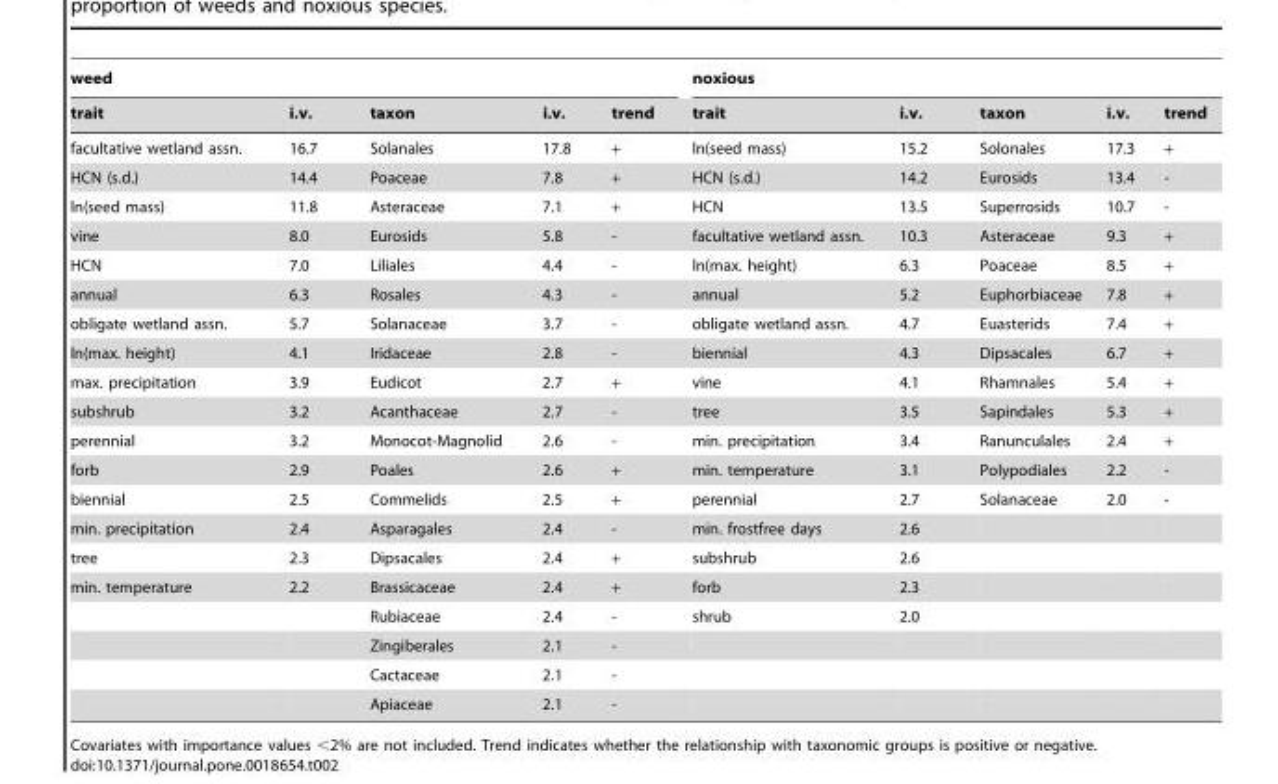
<table><thead><tr><td colspan="5">weed</td><td colspan="5">noxious</td></tr><tr><td>trait</td><td>i.v.</td><td>taxon</td><td>i.v.</td><td>trend</td><td>trait</td><td>i.v.</td><td>taxon</td><td>i.v.</td><td>trend</td></tr></thead><tbody><tr><td>facultative wetland assn.</td><td>16.7</td><td>Solanales</td><td>17.8</td><td>+</td><td>ln(seed mass)</td><td>15.2</td><td>Solonales</td><td>17.3</td><td>+</td></tr><tr><td>HCN (s.d.)</td><td>14.4</td><td>Poaceae</td><td>7.8</td><td>+</td><td>HCN (s.d.)</td><td>14.2</td><td>Eurosids</td><td>13.4</td><td>-</td></tr><tr><td>ln(seed mass)</td><td>11.8</td><td>Asteraceae</td><td>7.1</td><td>+</td><td>HCN</td><td>13.5</td><td>Superrosids</td><td>10.7</td><td>-</td></tr><tr><td>vine</td><td>8.0</td><td>Eurosids</td><td>5.8</td><td>-</td><td>facultative wetland assn.</td><td>10.3</td><td>Asteraceae</td><td>9.3</td><td>+</td></tr><tr><td>HCN</td><td>7.0</td><td>Liliales</td><td>4.4</td><td>-</td><td>ln(max. height)</td><td>6.3</td><td>Poaceae</td><td>8.5</td><td>+</td></tr><tr><td>annual</td><td>6.3</td><td>Rosales</td><td>4.3</td><td>-</td><td>annual</td><td>5.2</td><td>Euphorbiaceae</td><td>7.8</td><td>+</td></tr><tr><td>obligate wetland assn.</td><td>5.7</td><td>Solanaceae</td><td>3.7</td><td>-</td><td>obligate wetland assn.</td><td>4.7</td><td>Euasterids</td><td>7.4</td><td>+</td></tr><tr><td>ln(max. height)</td><td>4.1</td><td>Iridaceae</td><td>2.8</td><td>-</td><td>biennial</td><td>4.3</td><td>Dipsacales</td><td>6.7</td><td>+</td></tr><tr><td>max. precipitation</td><td>3.9</td><td>Eudicot</td><td>2.7</td><td>+</td><td>vine</td><td>4.1</td><td>Rhamnales</td><td>5.4</td><td>+</td></tr><tr><td>subshrub</td><td>3.2</td><td>Acanthaceae</td><td>2.7</td><td>-</td><td>tree</td><td>3.5</td><td>Sapindales</td><td>5.3</td><td>+</td></tr><tr><td>perennial</td><td>3.2</td><td>Monocot-Magnolid</td><td>2.6</td><td>-</td><td>min. precipitation</td><td>3.4</td><td>Ranunculales</td><td>2.4</td><td>+</td></tr><tr><td>forb</td><td>2.9</td><td>Poales</td><td>2.6</td><td>+</td><td>min. temperature</td><td>3.1</td><td>Polypodiales</td><td>2.2</td><td>-</td></tr><tr><td>biennial</td><td>2.5</td><td>Commelids</td><td>2.5</td><td>+</td><td>perennial</td><td>2.7</td><td>Solanaceae</td><td>2.0</td><td>-</td></tr><tr><td>min. precipitation</td><td>2.4</td><td>Asparagales</td><td>2.4</td><td>-</td><td>min. frostfree days</td><td>2.6</td><td></td><td></td><td></td></tr><tr><td>tree</td><td>2.3</td><td>Dipsacales</td><td>2.4</td><td>+</td><td>subshrub</td><td>2.6</td><td></td><td></td><td></td></tr><tr><td rowspan="5">min. temperature</td><td>2.2</td><td>Brassicaceae</td><td>2.4</td><td>+</td><td>forb</td><td>2.3</td><td></td><td></td><td></td></tr><tr><td></td><td>Rubiaceae</td><td>2.4</td><td>-</td><td>shrub</td><td>2.0</td><td></td><td></td><td></td></tr><tr><td></td><td>Zingiberales</td><td>2.1</td><td>-</td><td></td><td></td><td></td><td></td><td></td></tr><tr><td></td><td>Cactaceae</td><td>2.1</td><td>-</td><td></td><td></td><td></td><td></td><td></td></tr><tr><td></td><td>Apiaceae</td><td>2.1</td><td>-</td><td></td><td></td><td></td><td></td><td></td></tr></tbody></table>